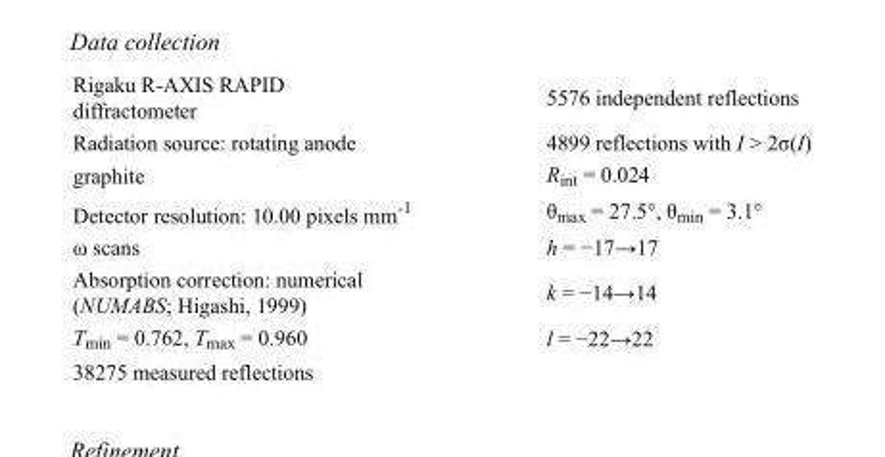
<table><tbody><tr><td>Rigaku R-AXIS RAPID diffractometer</td><td>5576 independent reflections</td></tr><tr><td>Radiation source: rotating anode</td><td>4899 reflections with I &gt; 2σ(I)</td></tr><tr><td>graphite</td><td>R<sub>int</sub> = 0.024</td></tr><tr><td>Detector resolution: 10.00 pixels mm<sup>-1</sup></td><td>θ<sub>max</sub> = 27.5°, θ<sub>min</sub> = 3.1°</td></tr><tr><td>ω scans</td><td>h = −17→17</td></tr><tr><td>Absorption correction: numerical (NUMABS; Higashi, 1999)</td><td>k = −14→14</td></tr><tr><td>T<sub>min</sub> = 0.762, T<sub>max</sub> = 0.960</td><td>l = −22→22</td></tr><tr><td>38275 measured reflections</td><td></td></tr></tbody></table>